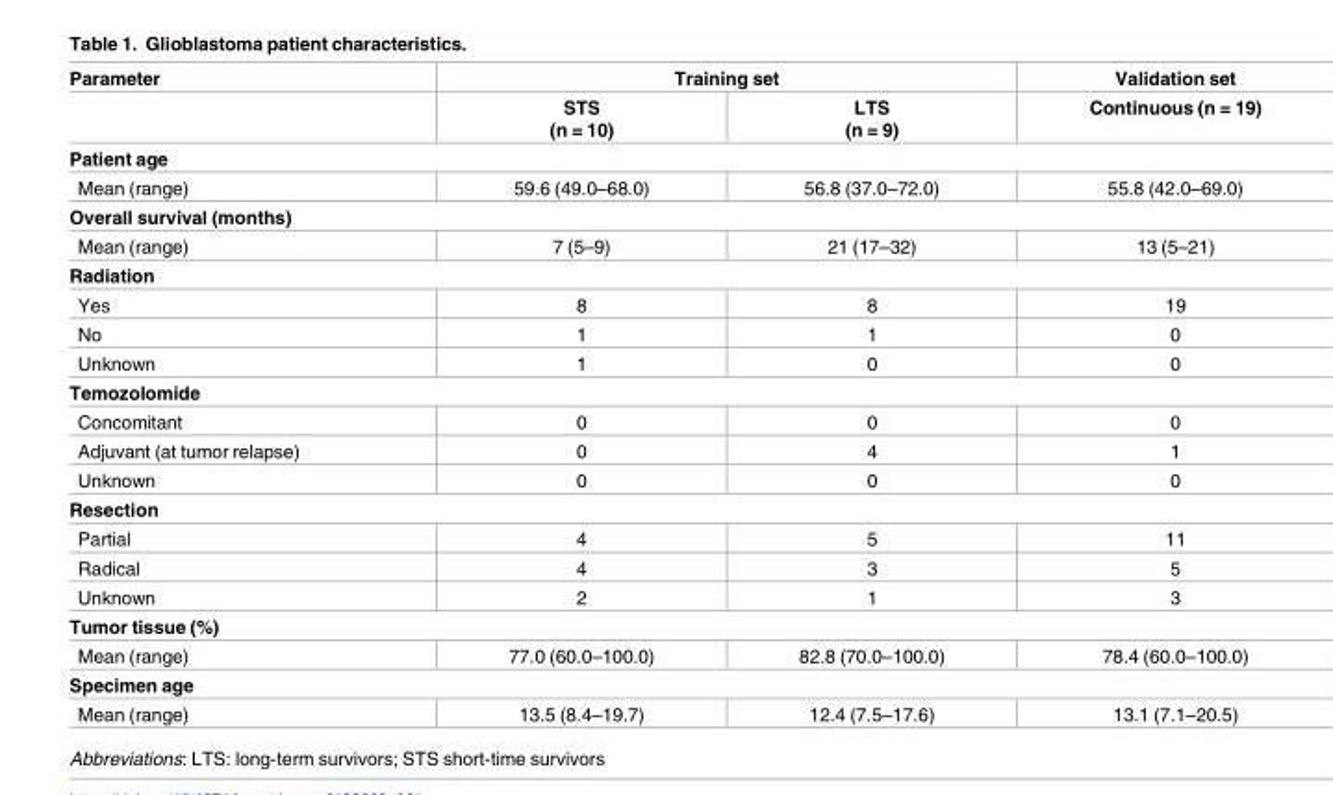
<table><thead><tr><td rowspan="2">Parameter</td><td colspan="2">Training set</td><td rowspan="2">Validation set Continuous (n = 19)</td></tr><tr><td>STS (n = 10)</td><td>LTS (n = 9)</td></tr></thead><tbody><tr><td colspan="4">Patient age</td></tr><tr><td>Mean (range)</td><td>59.6 (49.0–68.0)</td><td>56.8 (37.0–72.0)</td><td>55.8 (42.0–69.0)</td></tr><tr><td colspan="4">Overall survival (months)</td></tr><tr><td>Mean (range)</td><td>7 (5–9)</td><td>21 (17–32)</td><td>13 (5–21)</td></tr><tr><td colspan="4">Radiation</td></tr><tr><td>Yes</td><td>8</td><td>8</td><td>19</td></tr><tr><td>No</td><td>1</td><td>1</td><td>0</td></tr><tr><td>Unknown</td><td>1</td><td>0</td><td>0</td></tr><tr><td colspan="4">Temozolomide</td></tr><tr><td>Concomitant</td><td>0</td><td>0</td><td>0</td></tr><tr><td>Adjuvant (at tumor relapse)</td><td>0</td><td>4</td><td>1</td></tr><tr><td>Unknown</td><td>0</td><td>0</td><td>0</td></tr><tr><td colspan="4">Resection</td></tr><tr><td>Partial</td><td>4</td><td>5</td><td>11</td></tr><tr><td>Radical</td><td>4</td><td>3</td><td>5</td></tr><tr><td>Unknown</td><td>2</td><td>1</td><td>3</td></tr><tr><td colspan="4">Tumor tissue (%)</td></tr><tr><td>Mean (range)</td><td>77.0 (60.0–100.0)</td><td>82.8 (70.0–100.0)</td><td>78.4 (60.0–100.0)</td></tr><tr><td colspan="4">Specimen age</td></tr><tr><td>Mean (range)</td><td>13.5 (8.4–19.7)</td><td>12.4 (7.5–17.6)</td><td>13.1 (7.1–20.5)</td></tr></tbody></table>